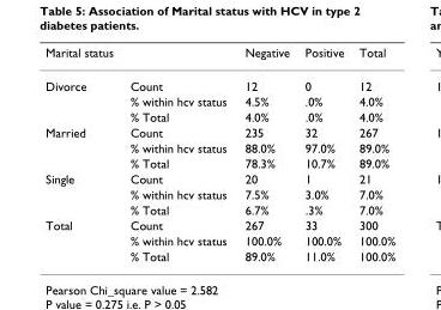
<table><thead><tr><td>Marital status</td><td></td><td>Negative</td><td>Positive</td><td>Total</td></tr></thead><tbody><tr><td rowspan="3">Divorce</td><td>Count</td><td>12</td><td>0</td><td>12</td></tr><tr><td>% within hcv status</td><td>4.5%</td><td>.0%</td><td>4.0%</td></tr><tr><td>% Total</td><td>4.0%</td><td>.0%</td><td>4.0%</td></tr><tr><td rowspan="3">Married</td><td>Count</td><td>235</td><td>32</td><td>267</td></tr><tr><td>% within hcv status</td><td>88.0%</td><td>97.0%</td><td>89.0%</td></tr><tr><td>% Total</td><td>78.3%</td><td>10.7%</td><td>89.0%</td></tr><tr><td rowspan="3">Single</td><td>Count</td><td>20</td><td>1</td><td>21</td></tr><tr><td>% within hcv status</td><td>7.5%</td><td>3.0%</td><td>7.0%</td></tr><tr><td>% Total</td><td>6.7%</td><td>.3%</td><td>7.0%</td></tr><tr><td rowspan="3">Total</td><td>Count</td><td>267</td><td>33</td><td>300</td></tr><tr><td>% within hcv status</td><td>100.0%</td><td>100.0%</td><td>100.0%</td></tr><tr><td>% Total</td><td>89.0%</td><td>11.0%</td><td>100.0%</td></tr></tbody></table>